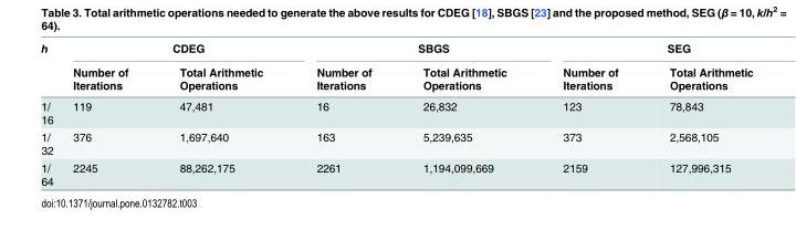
<table><thead><tr><td rowspan="2">h</td><td colspan="2">CDEG</td><td colspan="2">SBGS</td><td colspan="2">SEG</td></tr><tr><td>Number of Iterations</td><td>Total Arithmetic Operations</td><td>Number of Iterations</td><td>Total Arithmetic Operations</td><td>Number of Iterations</td><td>Total Arithmetic Operations</td></tr></thead><tbody><tr><td>1/ 16</td><td>119</td><td>47,481</td><td>16</td><td>26,832</td><td>123</td><td>78,843</td></tr><tr><td>1/ 32</td><td>376</td><td>1,697,640</td><td>163</td><td>5,239,635</td><td>373</td><td>2,568,105</td></tr><tr><td>1/ 64</td><td>2245</td><td>88,262,175</td><td>2261</td><td>1,194,099,669</td><td>2159</td><td>127,996,315</td></tr></tbody></table>